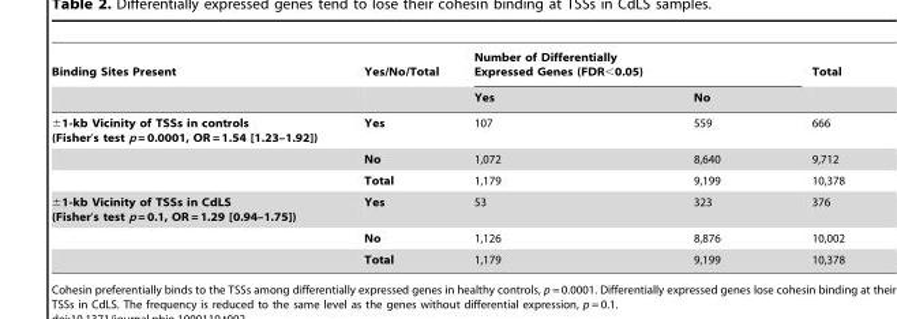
<table><thead><tr><td rowspan="2">Binding Sites Present</td><td rowspan="2">Yes/No/Total</td><td colspan="2">Number of Differentially Expressed Genes (FDR&lt;0.05)</td><td rowspan="2">Total</td></tr><tr><td>Yes</td><td>No</td></tr></thead><tbody><tr><td rowspan="3">±1-kb Vicinity of TSSs in controls (Fisher’s test p = 0.0001, OR = 1.54 [1.23–1.92])</td><td>Yes</td><td>107</td><td>559</td><td>666</td></tr><tr><td>No</td><td>1,072</td><td>8,640</td><td>9,712</td></tr><tr><td>Total</td><td>1,179</td><td>9,199</td><td>10,378</td></tr><tr><td rowspan="3">±1-kb Vicinity of TSSs in CdLS (Fisher’s test p = 0.1, OR = 1.29 [0.94–1.75])</td><td>Yes</td><td>53</td><td>323</td><td>376</td></tr><tr><td>No</td><td>1,126</td><td>8,876</td><td>10,002</td></tr><tr><td>Total</td><td>1,179</td><td>9,199</td><td>10,378</td></tr></tbody></table>